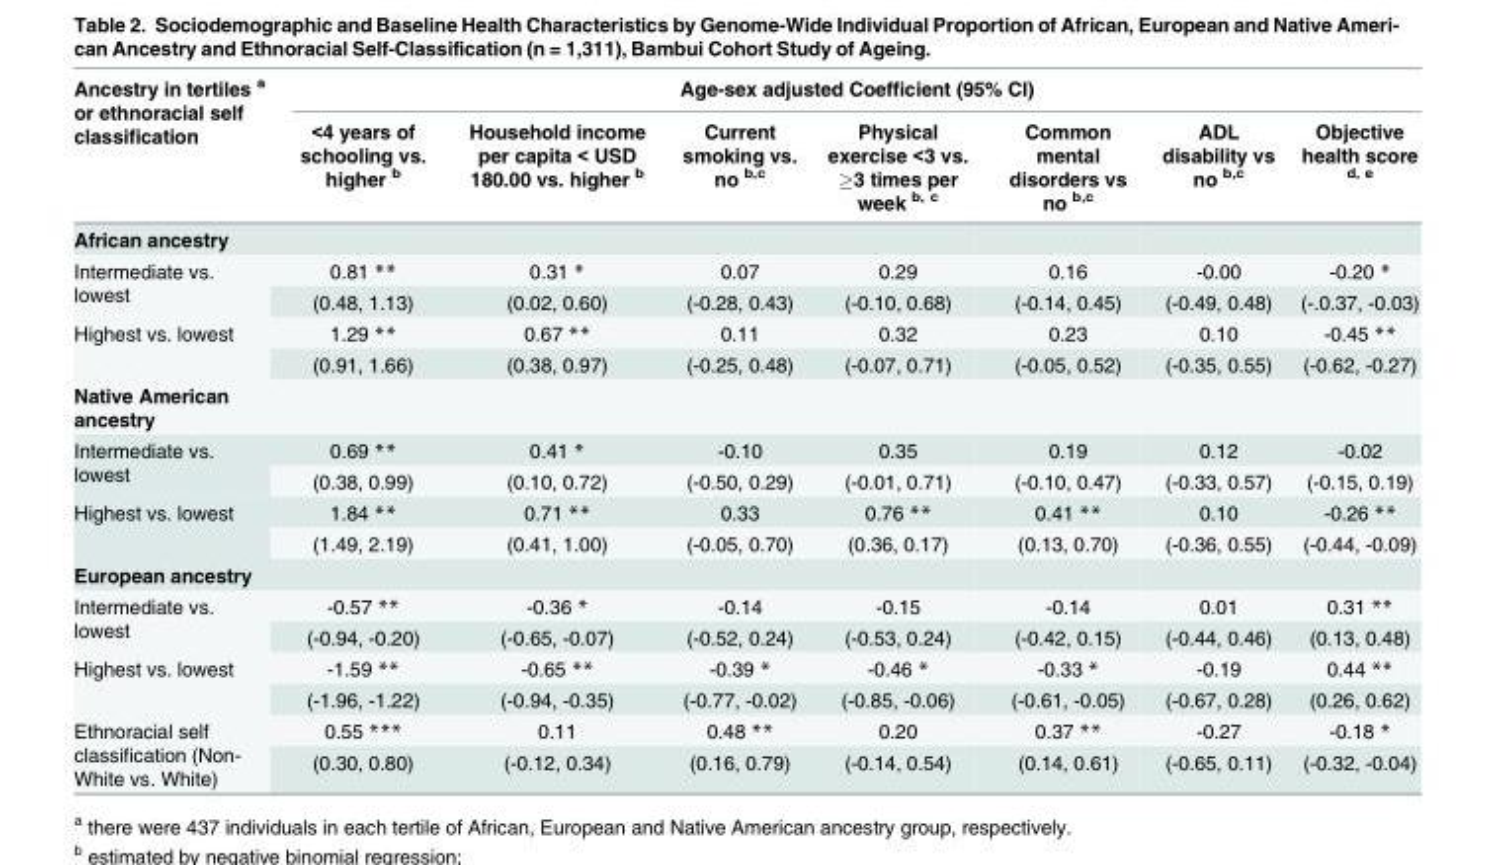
<table><thead><tr><td rowspan="2">Ancestry in tertiles <sup>a</sup> or ethnoracial self classification</td><td colspan="7">Age-sex adjusted Coefficient (95% CI)</td></tr><tr><td>&lt;4 years of schooling vs. higher <sup>b</sup></td><td>Household income per capita &lt; USD 180.00 vs. higher <sup>b</sup></td><td>Current smoking vs. no <sup>b,c</sup></td><td>Physical exercise &lt;3 vs. ≥3 times per week <sup>b, c</sup></td><td>Common mental disorders vs no <sup>b,c</sup></td><td>ADL disability vs no <sup>b,c</sup></td><td>Objective health score <sup>d, e</sup></td></tr></thead><tbody><tr><td colspan="8">African ancestry</td></tr><tr><td rowspan="2">Intermediate vs. lowest</td><td>0.81 **</td><td>0.31 *</td><td>0.07</td><td>0.29</td><td>0.16</td><td>-0.00</td><td>-0.20 *</td></tr><tr><td>(0.48, 1.13)</td><td>(0.02, 0.60)</td><td>(-0.28, 0.43)</td><td>(-0.10, 0.68)</td><td>(-0.14, 0.45)</td><td>(-0.49, 0.48)</td><td>(-.0.37, -0.03)</td></tr><tr><td rowspan="2">Highest vs. lowest</td><td>1.29 **</td><td>0.67 **</td><td>0.11</td><td>0.32</td><td>0.23</td><td>0.10</td><td>-0.45 **</td></tr><tr><td>(0.91, 1.66)</td><td>(0.38, 0.97)</td><td>(-0.25, 0.48)</td><td>(-0.07, 0.71)</td><td>(-0.05, 0.52)</td><td>(-0.35, 0.55)</td><td>(-0.62, -0.27)</td></tr><tr><td colspan="8">Native American ancestry</td></tr><tr><td rowspan="2">Intermediate vs. lowest</td><td>0.69 **</td><td>0.41 *</td><td>-0.10</td><td>0.35</td><td>0.19</td><td>0.12</td><td>-0.02</td></tr><tr><td>(0.38, 0.99)</td><td>(0.10, 0.72)</td><td>(-0.50, 0.29)</td><td>(-0.01, 0.71)</td><td>(-0.10, 0.47)</td><td>(-0.33, 0.57)</td><td>(-0.15, 0.19)</td></tr><tr><td rowspan="2">Highest vs. lowest</td><td>1.84 **</td><td>0.71 **</td><td>0.33</td><td>0.76 **</td><td>0.41 **</td><td>0.10</td><td>-0.26 **</td></tr><tr><td>(1.49, 2.19)</td><td>(0.41, 1.00)</td><td>(-0.05, 0.70)</td><td>(0.36, 0.17)</td><td>(0.13, 0.70)</td><td>(-0.36, 0.55)</td><td>(-0.44, -0.09)</td></tr><tr><td colspan="8">European ancestry</td></tr><tr><td rowspan="2">Intermediate vs. lowest</td><td>-0.57 **</td><td>-0.36 *</td><td>-0.14</td><td>-0.15</td><td>-0.14</td><td>0.01</td><td>0.31 **</td></tr><tr><td>(-0.94, -0.20)</td><td>(-0.65, -0.07)</td><td>(-0.52, 0.24)</td><td>(-0.53, 0.24)</td><td>(-0.42, 0.15)</td><td>(-0.44, 0.46)</td><td>(0.13, 0.48)</td></tr><tr><td rowspan="2">Highest vs. lowest</td><td>-1.59 **</td><td>-0.65 **</td><td>-0.39 *</td><td>-0.46 *</td><td>-0.33 *</td><td>-0.19</td><td>0.44 **</td></tr><tr><td>(-1.96, -1.22)</td><td>(-0.94, -0.35)</td><td>(-0.77, -0.02)</td><td>(-0.85, -0.06)</td><td>(-0.61, -0.05)</td><td>(-0.67, 0.28)</td><td>(0.26, 0.62)</td></tr><tr><td rowspan="2">Ethnoracial self classification (Non- White vs. White)</td><td>0.55 ***</td><td>0.11</td><td>0.48 **</td><td>0.20</td><td>0.37 **</td><td>-0.27</td><td>-0.18 *</td></tr><tr><td>(0.30, 0.80)</td><td>(-0.12, 0.34)</td><td>(0.16, 0.79)</td><td>(-0.14, 0.54)</td><td>(0.14, 0.61)</td><td>(-0.65, 0.11)</td><td>(-0.32, -0.04)</td></tr></tbody></table>